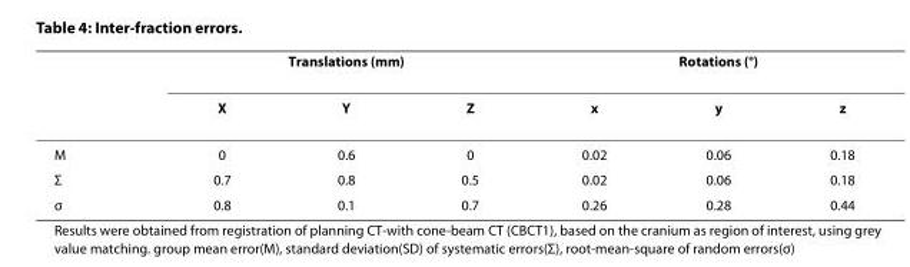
<table><thead><tr><td rowspan="2"></td><td colspan="3">Translations (mm)</td><td colspan="3">Rotations (°)</td></tr><tr><td>X</td><td>Y</td><td>Z</td><td>x</td><td>y</td><td>z</td></tr></thead><tbody><tr><td>M</td><td>0</td><td>0.6</td><td>0</td><td>0.02</td><td>0.06</td><td>0.18</td></tr><tr><td>Σ</td><td>0.7</td><td>0.8</td><td>0.5</td><td>0.02</td><td>0.06</td><td>0.18</td></tr><tr><td>σ</td><td>0.8</td><td>0.1</td><td>0.7</td><td>0.26</td><td>0.28</td><td>0.44</td></tr></tbody></table>